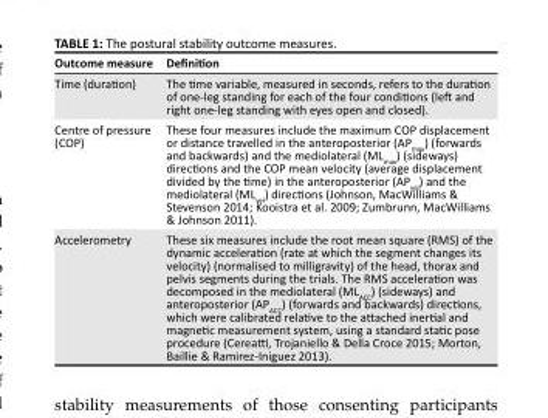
<table><thead><tr><td>Outcome measure</td><td>Definition</td></tr></thead><tbody><tr><td>Time (duration)</td><td>The time variable, measured in seconds, refers to the duration of one-leg standing for each of the four conditions (left and right one-leg standing with eyes open and closed).</td></tr><tr><td>Centre of pressure (COP)</td><td>These four measures include the maximum COP displacement or distance travelled in the anteroposterior (AP<sub>max</sub>) (forwards and backwards) and the mediolateral (ML<sub>max</sub>) (sideways) directions and the COP mean velocity (average displacement divided by the time) in the anteroposterior (AP<sub>vel</sub>) and the mediolateral (ML<sub>vel</sub>) directions (Johnson, MacWilliams &amp; Stevenson 2014; Kooistra et al. 2009; Zumbrunn, MacWilliams &amp; Johnson 2011).</td></tr><tr><td>Accelerometry</td><td>These six measures include the root mean square (RMS) of the dynamic acceleration (rate at which the segment changes its velocity) (normalised to milligravity) of the head, thorax and pelvis segments during the trials. The RMS acceleration was decomposed in the mediolateral (ML<sub>ACC</sub>) (sideways) and anteroposterior (AP<sub>ACC</sub>) (forwards and backwards) directions, which were calibrated relative to the attached inertial and magnetic measurement system, using a standard static pose procedure (Cereatti, Trojaniello &amp; Della Croce 2015; Morton, Baillie &amp; Ramirez-Iniguez 2013).</td></tr></tbody></table>